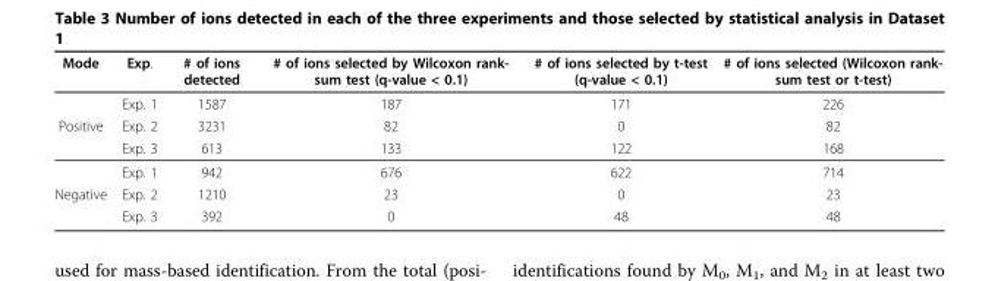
<table><thead><tr><td>Mode</td><td>Exp.</td><td># of ions detected</td><td># of ions selected by Wilcoxon rank- sum test (q-value &lt; 0.1)</td><td># of ions selected by t-test (q-value &lt; 0.1)</td><td># of ions selected (Wilcoxon rank- sum test or t-test)</td></tr></thead><tbody><tr><td></td><td>Exp. 1</td><td>1587</td><td>187</td><td>171</td><td>226</td></tr><tr><td rowspan="3">Positive</td><td>Exp. 2</td><td>3231</td><td>82</td><td>0</td><td>82</td></tr><tr><td>Exp. 3</td><td>613</td><td>133</td><td>122</td><td>168</td></tr><tr><td>Exp. 1</td><td>942</td><td>676</td><td>622</td><td>714</td></tr><tr><td rowspan="2">Negative</td><td>Exp. 2</td><td>1210</td><td>23</td><td>0</td><td>23</td></tr><tr><td>Exp. 3</td><td>392</td><td>0</td><td>48</td><td>48</td></tr></tbody></table>